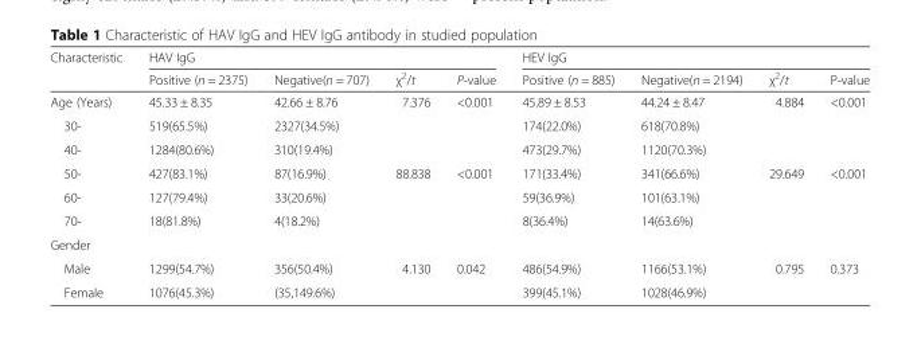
<table><thead><tr><td rowspan="2">Characteristic</td><td colspan="4">HAV IgG</td><td colspan="4">HEV IgG</td></tr><tr><td>Positive (n = 2375)</td><td>Negative(n = 707)</td><td>χ<sup>2</sup>/t</td><td>P-value</td><td>Positive (n = 885)</td><td>Negative(n = 2194)</td><td>χ<sup>2</sup>/t</td><td>P-value</td></tr></thead><tbody><tr><td>Age (Years)</td><td>45.33 ± 8.35</td><td>42.66 ± 8.76</td><td>7.376</td><td>&lt;0.001</td><td>45.89 ± 8.53</td><td>44.24 ± 8.47</td><td>4.884</td><td>&lt;0.001</td></tr><tr><td>30-</td><td>519(65.5%)</td><td>2327(34.5%)</td><td></td><td></td><td>174(22.0%)</td><td>618(70.8%)</td><td></td><td></td></tr><tr><td>40-</td><td>1284(80.6%)</td><td>310(19.4%)</td><td></td><td></td><td>473(29.7%)</td><td>1120(70.3%)</td><td></td><td></td></tr><tr><td>50-</td><td>427(83.1%)</td><td>87(16.9%)</td><td>88.838</td><td>&lt;0.001</td><td>171(33.4%)</td><td>341(66.6%)</td><td>29.649</td><td>&lt;0.001</td></tr><tr><td>60-</td><td>127(79.4%)</td><td>33(20.6%)</td><td></td><td></td><td>59(36.9%)</td><td>101(63.1%)</td><td></td><td></td></tr><tr><td>70-</td><td>18(81.8%)</td><td>4(18.2%)</td><td></td><td></td><td>8(36.4%)</td><td>14(63.6%)</td><td></td><td></td></tr><tr><td colspan="9">Gender</td></tr><tr><td>Male</td><td>1299(54.7%)</td><td>356(50.4%)</td><td>4.130</td><td>0.042</td><td>486(54.9%)</td><td>1166(53.1%)</td><td>0.795</td><td>0.373</td></tr><tr><td>Female</td><td>1076(45.3%)</td><td>(35,149.6%)</td><td></td><td></td><td>399(45.1%)</td><td>1028(46.9%)</td><td></td><td></td></tr></tbody></table>